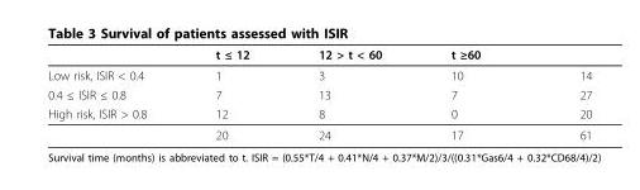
<table><thead><tr><td></td><td>t ≤ 12</td><td>12 &gt; t &lt; 60</td><td>t ≥60</td><td></td></tr></thead><tbody><tr><td>Low risk, ISIR &lt; 0.4</td><td>1</td><td>3</td><td>10</td><td>14</td></tr><tr><td>0.4 ≤ ISIR ≤ 0.8</td><td>7</td><td>13</td><td>7</td><td>27</td></tr><tr><td rowspan="2">High risk, ISIR &gt; 0.8</td><td>12</td><td>8</td><td>0</td><td>20</td></tr><tr><td>20</td><td>24</td><td>17</td><td>61</td></tr></tbody></table>